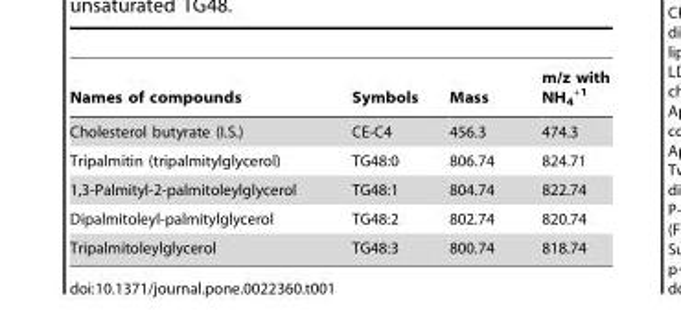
<table><thead><tr><td>Names of compounds</td><td>Symbols</td><td>Mass</td><td>m/z with NH<sub>4</sub> <sup>+1</sup></td></tr></thead><tbody><tr><td>Cholesterol butyrate (I.S.)</td><td>CE-C4</td><td>456.3</td><td>474.3</td></tr><tr><td>Tripalmitin (tripalmitylglycerol)</td><td>TG48:0</td><td>806.74</td><td>824.71</td></tr><tr><td>1,3-Palmityl-2-palmitoleylglycerol</td><td>TG48:1</td><td>804.74</td><td>822.74</td></tr><tr><td>Dipalmitoleyl-palmitylglycerol</td><td>TG48:2</td><td>802.74</td><td>820.74</td></tr><tr><td>Tripalmitoleylglycerol</td><td>TG48:3</td><td>800.74</td><td>818.74</td></tr></tbody></table>